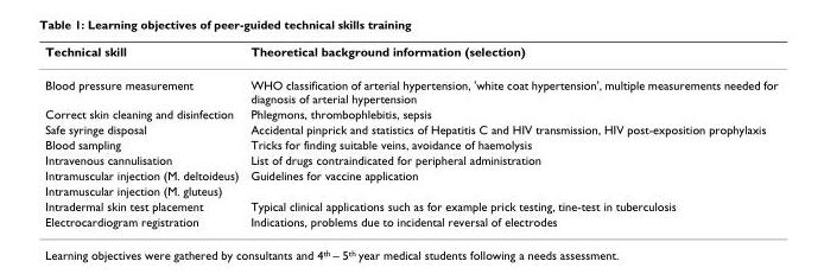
<table><thead><tr><td>Technical skill</td><td>Theoretical background information (selection)</td></tr></thead><tbody><tr><td>Blood pressure measurement</td><td>WHO classification of arterial hypertension, &#x27;white coat hypertension&#x27;, multiple measurements needed for diagnosis of arterial hypertension</td></tr><tr><td>Correct skin cleaning and disinfection</td><td>Phlegmons, thrombophlebitis, sepsis</td></tr><tr><td>Safe syringe disposal</td><td>Accidental pinprick and statistics of Hepatitis C and HIV transmission, HIV post-exposition prophylaxis</td></tr><tr><td>Blood sampling</td><td>Tricks for finding suitable veins, avoidance of haemolysis</td></tr><tr><td>Intravenous cannulisation</td><td>List of drugs contraindicated for peripheral administration</td></tr><tr><td>Intramuscular injection (M. deltoideus)</td><td>Guidelines for vaccine application</td></tr><tr><td colspan="2">Intramuscular injection (M. gluteus)</td></tr><tr><td>Intradermal skin test placement</td><td>Typical clinical applications such as for example prick testing, tine-test in tuberculosis</td></tr><tr><td>Electrocardiogram registration</td><td>Indications, problems due to incidental reversal of electrodes</td></tr></tbody></table>